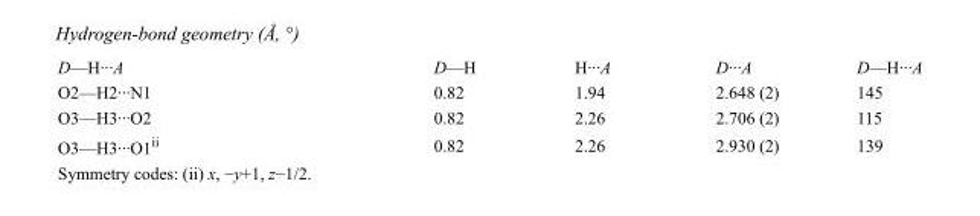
<table><tbody><tr><td>D—H···A</td><td>D—H</td><td>H···A</td><td>D···A</td><td>D—H···A</td></tr><tr><td>O2—H2···N1</td><td>0.82</td><td>1.94</td><td>2.648 (2)</td><td>145</td></tr><tr><td>O3—H3···O2</td><td>0.82</td><td>2.26</td><td>2.706 (2)</td><td>115</td></tr><tr><td>O3—H3···O1<sup>ii</sup></td><td>0.82</td><td>2.26</td><td>2.930 (2)</td><td>139</td></tr></tbody></table>